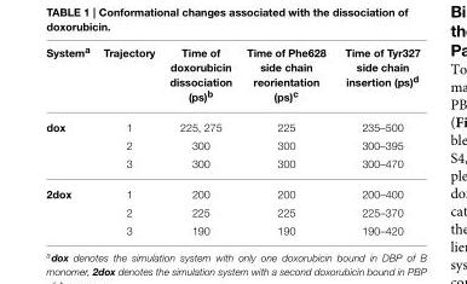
<table><thead><tr><td>System<sup>a</sup></td><td>Trajectory</td><td>Time of doxorubicin dissociation (ps)<sup>b</sup></td><td>Time of Phe628 side chain reorientation (ps)<sup>c</sup></td><td>Time of Tyr327 side chain insertion (ps)<sup>d</sup></td></tr></thead><tbody><tr><td rowspan="3">dox</td><td>1</td><td>225, 275</td><td>225</td><td>235–500</td></tr><tr><td>2</td><td>300</td><td>300</td><td>300–395</td></tr><tr><td>3</td><td>300</td><td>300</td><td>300–470</td></tr><tr><td rowspan="3">2dox</td><td>1</td><td>200</td><td>200</td><td>200–400</td></tr><tr><td>2</td><td>225</td><td>225</td><td>225–370</td></tr><tr><td>3</td><td>190</td><td>190</td><td>190–420</td></tr></tbody></table>